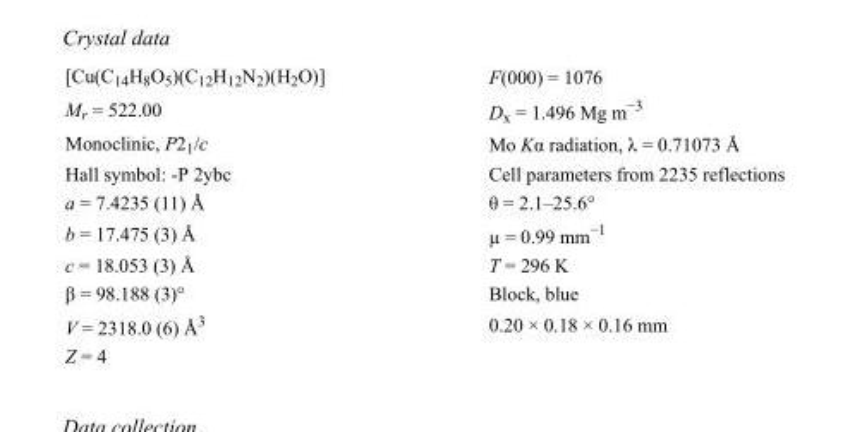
<table><tbody><tr><td>[Cu(C<sub>14</sub>H<sub>8</sub>O<sub>5</sub>)(C<sub>12</sub>H<sub>12</sub>N<sub>2</sub>)(H<sub>2</sub>O)]</td><td>F(000) = 1076</td></tr><tr><td>M<sub>r</sub> = 522.00</td><td>D<sub>x</sub> = 1.496 Mg m<sup>−3</sup></td></tr><tr><td>Monoclinic, P2<sub>1</sub>/c</td><td>Mo Kα radiation, λ = 0.71073 Å</td></tr><tr><td>Hall symbol: -P 2ybc</td><td>Cell parameters from 2235 reflections</td></tr><tr><td>a = 7.4235 (11) Å</td><td>θ = 2.1–25.6°</td></tr><tr><td>b = 17.475 (3) Å</td><td>µ = 0.99 mm<sup>−1</sup></td></tr><tr><td>c = 18.053 (3) Å</td><td>T = 296 K</td></tr><tr><td>β = 98.188 (3)°</td><td>Block, blue</td></tr><tr><td>V = 2318.0 (6) Å<sup>3</sup></td><td>0.20 × 0.18 × 0.16 mm</td></tr><tr><td>Z = 4</td><td></td></tr></tbody></table>